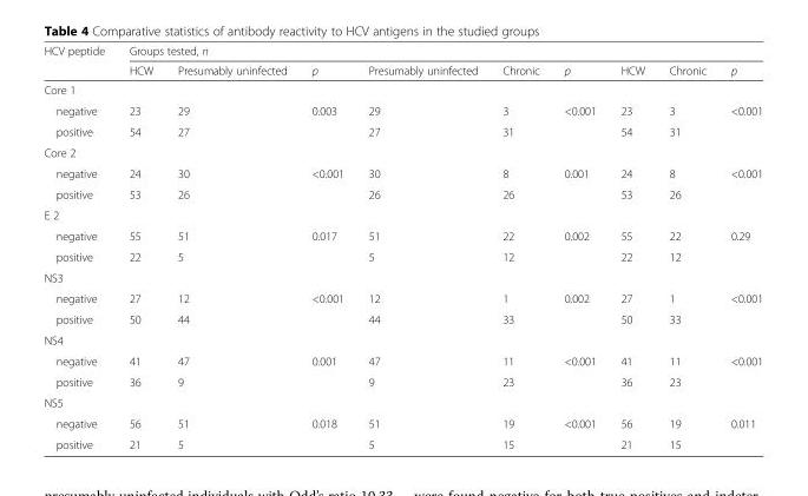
<table><thead><tr><td rowspan="2">HCV peptide</td><td colspan="9">Groups tested, n</td></tr><tr><td>HCW</td><td>Presumably uninfected</td><td>p</td><td>Presumably uninfected</td><td>Chronic</td><td>p</td><td>HCW</td><td>Chronic</td><td>p</td></tr></thead><tbody><tr><td colspan="10">Core 1</td></tr><tr><td>negative</td><td>23</td><td>29</td><td>0.003</td><td>29</td><td>3</td><td>&lt;0.001</td><td>23</td><td>3</td><td>&lt;0.001</td></tr><tr><td>positive</td><td>54</td><td>27</td><td></td><td>27</td><td>31</td><td></td><td>54</td><td>31</td><td></td></tr><tr><td colspan="10">Core 2</td></tr><tr><td>negative</td><td>24</td><td>30</td><td>&lt;0.001</td><td>30</td><td>8</td><td>0.001</td><td>24</td><td>8</td><td>&lt;0.001</td></tr><tr><td>positive</td><td>53</td><td>26</td><td></td><td>26</td><td>26</td><td></td><td>53</td><td>26</td><td></td></tr><tr><td colspan="10">E 2</td></tr><tr><td>negative</td><td>55</td><td>51</td><td>0.017</td><td>51</td><td>22</td><td>0.002</td><td>55</td><td>22</td><td>0.29</td></tr><tr><td>positive</td><td>22</td><td>5</td><td></td><td>5</td><td>12</td><td></td><td>22</td><td>12</td><td></td></tr><tr><td colspan="10">NS3</td></tr><tr><td>negative</td><td>27</td><td>12</td><td>&lt;0.001</td><td>12</td><td>1</td><td>0.002</td><td>27</td><td>1</td><td>&lt;0.001</td></tr><tr><td>positive</td><td>50</td><td>44</td><td></td><td>44</td><td>33</td><td></td><td>50</td><td>33</td><td></td></tr><tr><td colspan="10">NS4</td></tr><tr><td>negative</td><td>41</td><td>47</td><td>0.001</td><td>47</td><td>11</td><td>&lt;0.001</td><td>41</td><td>11</td><td>&lt;0.001</td></tr><tr><td>positive</td><td>36</td><td>9</td><td></td><td>9</td><td>23</td><td></td><td>36</td><td>23</td><td></td></tr><tr><td colspan="10">NS5</td></tr><tr><td>negative</td><td>56</td><td>51</td><td>0.018</td><td>51</td><td>19</td><td>&lt;0.001</td><td>56</td><td>19</td><td>0.011</td></tr><tr><td>positive</td><td>21</td><td>5</td><td></td><td>5</td><td>15</td><td></td><td>21</td><td>15</td><td></td></tr></tbody></table>